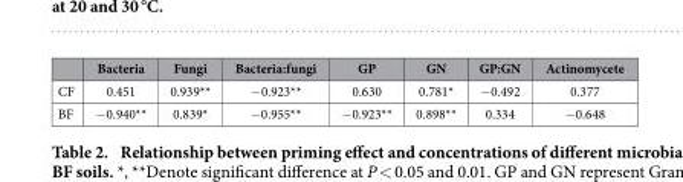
<table><thead><tr><td></td><td>Bacteria</td><td>Fungi</td><td>Bacteria:fungi</td><td>GP</td><td>GN</td><td>GP:GN</td><td>Actinomycete</td></tr></thead><tbody><tr><td>CF</td><td>0.451</td><td>0.939**</td><td>− 0.923**</td><td>0.630</td><td>0.781*</td><td>− 0.492</td><td>0.377</td></tr><tr><td>BF</td><td>− 0.940**</td><td>0.839*</td><td>− 0.955**</td><td>− 0.923**</td><td>0.898**</td><td>0.334</td><td>− 0.648</td></tr></tbody></table>